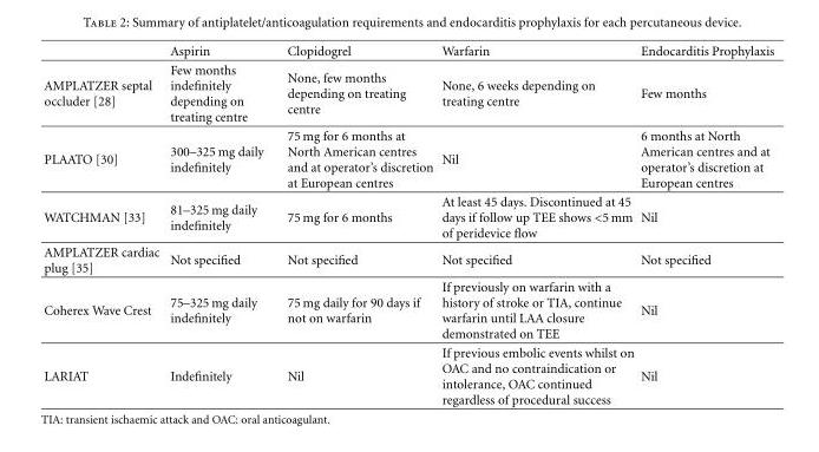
<table><thead><tr><td></td><td>Aspirin</td><td>Clopidogrel</td><td>Warfarin</td><td>Endocarditis Prophylaxis</td></tr></thead><tbody><tr><td>AMPLATZER septal occluder [28]</td><td>Few months indefinitely depending on treating centre</td><td>None, few months depending on treating centre</td><td>None, 6 weeks depending on treating centre</td><td>Few months</td></tr><tr><td>PLAATO [30]</td><td>300–325 mg daily indefinitely</td><td>75 mg for 6 months at North American centres and at operator’s discretion at European centres</td><td>Nil</td><td>6 months at North American centres and at operator’s discretion at European centres</td></tr><tr><td>WATCHMAN [33]</td><td>81–325 mg daily indefinitely</td><td>75 mg for 6 months</td><td>At least 45 days. Discontinued at 45 days if follow up TEE shows &lt;5 mm of peridevice flow</td><td>Nil</td></tr><tr><td>AMPLATZER cardiac plug [35]</td><td>Not specified</td><td>Not specified</td><td>Not specified</td><td>Not specified</td></tr><tr><td>Coherex Wave Crest</td><td>75–325 mg daily indefinitely</td><td>75 mg daily for 90 days if not on warfarin</td><td>If previously on warfarin with a history of stroke or TIA, continue warfarin until LAA closure demonstrated on TEE</td><td>Nil</td></tr><tr><td>LARIAT</td><td>Indefinitely</td><td>Nil</td><td>If previous embolic events whilst on OAC and no contraindication or intolerance, OAC continued regardless of procedural success</td><td>Nil</td></tr></tbody></table>